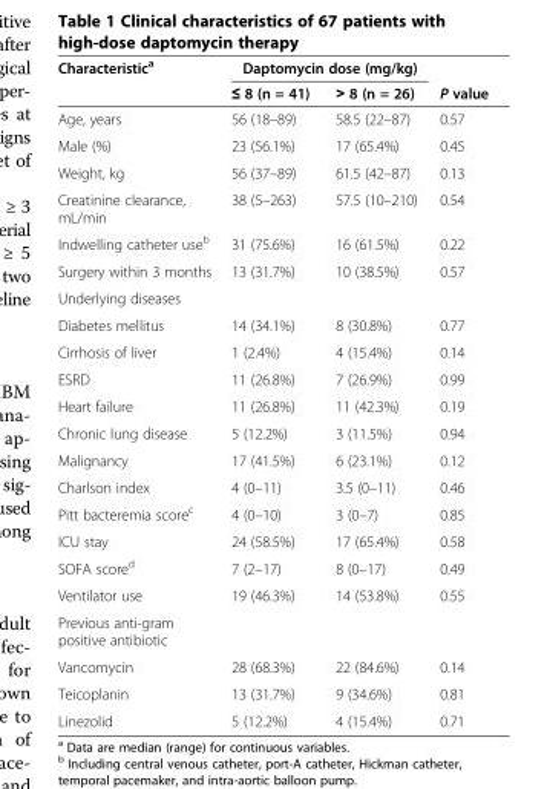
<table><thead><tr><td rowspan="2">Characteristic<sup>a</sup></td><td colspan="2">Daptomycin dose (mg/kg)</td><td rowspan="2">P value</td></tr><tr><td>≤ 8 (n = 41)</td><td>&gt; 8 (n = 26)</td></tr></thead><tbody><tr><td>Age, years</td><td>56 (18–89)</td><td>58.5 (22–87)</td><td>0.57</td></tr><tr><td>Male (%)</td><td>23 (56.1%)</td><td>17 (65.4%)</td><td>0.45</td></tr><tr><td>Weight, kg</td><td>56 (37–89)</td><td>61.5 (42–87)</td><td>0.13</td></tr><tr><td>Creatinine clearance, mL/min</td><td>38 (5–263)</td><td>57.5 (10–210)</td><td>0.54</td></tr><tr><td>Indwelling catheter use<sup>b</sup></td><td>31 (75.6%)</td><td>16 (61.5%)</td><td>0.22</td></tr><tr><td>Surgery within 3 months</td><td>13 (31.7%)</td><td>10 (38.5%)</td><td>0.57</td></tr><tr><td colspan="4">Underlying diseases</td></tr><tr><td>Diabetes mellitus</td><td>14 (34.1%)</td><td>8 (30.8%)</td><td>0.77</td></tr><tr><td>Cirrhosis of liver</td><td>1 (2.4%)</td><td>4 (15.4%)</td><td>0.14</td></tr><tr><td>ESRD</td><td>11 (26.8%)</td><td>7 (26.9%)</td><td>0.99</td></tr><tr><td>Heart failure</td><td>11 (26.8%)</td><td>11 (42.3%)</td><td>0.19</td></tr><tr><td>Chronic lung disease</td><td>5 (12.2%)</td><td>3 (11.5%)</td><td>0.94</td></tr><tr><td>Malignancy</td><td>17 (41.5%)</td><td>6 (23.1%)</td><td>0.12</td></tr><tr><td>Charlson index</td><td>4 (0–11)</td><td>3.5 (0–11)</td><td>0.46</td></tr><tr><td>Pitt bacteremia score<sup>c</sup></td><td>4 (0–10)</td><td>3 (0–7)</td><td>0.85</td></tr><tr><td>ICU stay</td><td>24 (58.5%)</td><td>17 (65.4%)</td><td>0.58</td></tr><tr><td>SOFA score<sup>d</sup></td><td>7 (2–17)</td><td>8 (0–17)</td><td>0.49</td></tr><tr><td>Ventilator use</td><td>19 (46.3%)</td><td>14 (53.8%)</td><td>0.55</td></tr><tr><td colspan="4">Previous anti-gram positive antibiotic</td></tr><tr><td>Vancomycin</td><td>28 (68.3%)</td><td>22 (84.6%)</td><td>0.14</td></tr><tr><td>Teicoplanin</td><td>13 (31.7%)</td><td>9 (34.6%)</td><td>0.81</td></tr><tr><td>Linezolid</td><td>5 (12.2%)</td><td>4 (15.4%)</td><td>0.71</td></tr></tbody></table>